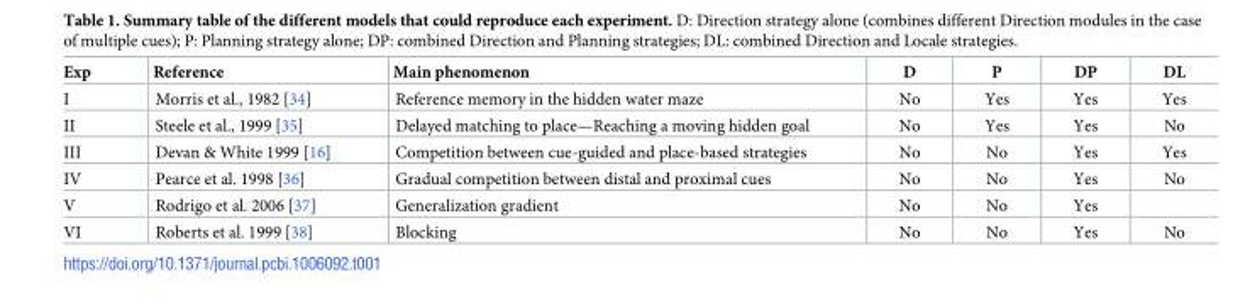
<table><thead><tr><td>Exp</td><td>Reference</td><td>Main phenomenon</td><td>D</td><td>P</td><td>DP</td><td>DL</td></tr></thead><tbody><tr><td>I</td><td>Morris et al., 1982 [34]</td><td>Reference memory in the hidden water maze</td><td>No</td><td>Yes</td><td>Yes</td><td>Yes</td></tr><tr><td>II</td><td>Steele et al., 1999 [35]</td><td>Delayed matching to place—Reaching a moving hidden goal</td><td>No</td><td>Yes</td><td>Yes</td><td>No</td></tr><tr><td>III</td><td>Devan &amp; White 1999 [16]</td><td>Competition between cue-guided and place-based strategies</td><td>No</td><td>No</td><td>Yes</td><td>Yes</td></tr><tr><td>IV</td><td>Pearce et al. 1998 [36]</td><td>Gradual competition between distal and proximal cues</td><td>No</td><td>No</td><td>Yes</td><td>No</td></tr><tr><td>V</td><td>Rodrigo et al. 2006 [37]</td><td>Generalization gradient</td><td>No</td><td>No</td><td>Yes</td><td></td></tr><tr><td>VI</td><td>Roberts et al. 1999 [38]</td><td>Blocking</td><td>No</td><td>No</td><td>Yes</td><td>No</td></tr></tbody></table>